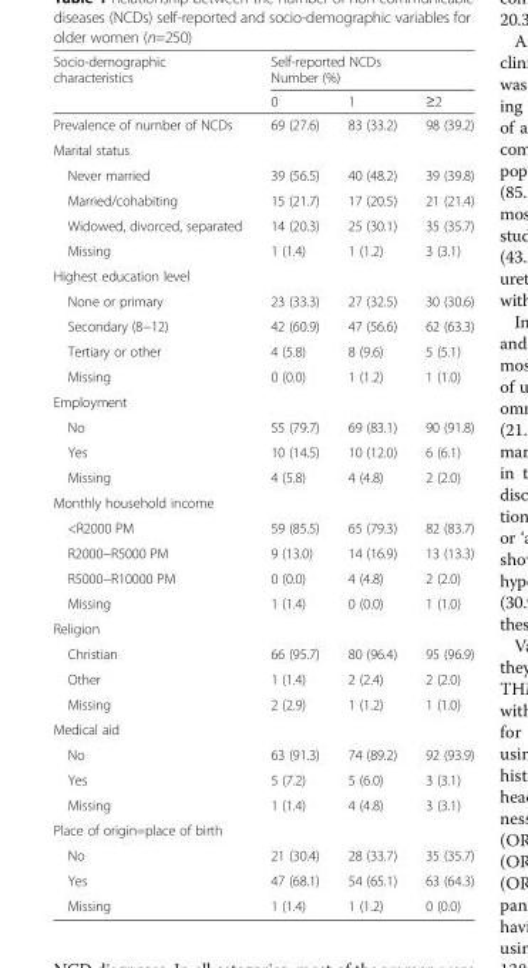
<table><thead><tr><td rowspan="2">Socio-demographic characteristics</td><td colspan="3">Self-reported NCDs Number (%)</td></tr><tr><td>0</td><td>1</td><td>≥2</td></tr></thead><tbody><tr><td>Prevalence of number of NCDs</td><td>69 (27.6)</td><td>83 (33.2)</td><td>98 (39.2)</td></tr><tr><td colspan="4">Marital status</td></tr><tr><td>Never married</td><td>39 (56.5)</td><td>40 (48.2)</td><td>39 (39.8)</td></tr><tr><td>Married/cohabiting</td><td>15 (21.7)</td><td>17 (20.5)</td><td>21 (21.4)</td></tr><tr><td>Widowed, divorced, separated</td><td>14 (20.3)</td><td>25 (30.1)</td><td>35 (35.7)</td></tr><tr><td>Missing</td><td>1 (1.4)</td><td>1 (1.2)</td><td>3 (3.1)</td></tr><tr><td colspan="4">Highest education level</td></tr><tr><td>None or primary</td><td>23 (33.3)</td><td>27 (32.5)</td><td>30 (30.6)</td></tr><tr><td>Secondary (8−12)</td><td>42 (60.9)</td><td>47 (56.6)</td><td>62 (63.3)</td></tr><tr><td>Tertiary or other</td><td>4 (5.8)</td><td>8 (9.6)</td><td>5 (5.1)</td></tr><tr><td>Missing</td><td>0 (0.0)</td><td>1 (1.2)</td><td>1 (1.0)</td></tr><tr><td colspan="4">Employment</td></tr><tr><td>No</td><td>55 (79.7)</td><td>69 (83.1)</td><td>90 (91.8)</td></tr><tr><td>Yes</td><td>10 (14.5)</td><td>10 (12.0)</td><td>6 (6.1)</td></tr><tr><td>Missing</td><td>4 (5.8)</td><td>4 (4.8)</td><td>2 (2.0)</td></tr><tr><td colspan="4">Monthly household income</td></tr><tr><td>&lt;R2000 PM</td><td>59 (85.5)</td><td>65 (79.3)</td><td>82 (83.7)</td></tr><tr><td>R2000−R5000 PM</td><td>9 (13.0)</td><td>14 (16.9)</td><td>13 (13.3)</td></tr><tr><td>R5000−R10000 PM</td><td>0 (0.0)</td><td>4 (4.8)</td><td>2 (2.0)</td></tr><tr><td>Missing</td><td>1 (1.4)</td><td>0 (0.0)</td><td>1 (1.0)</td></tr><tr><td colspan="4">Religion</td></tr><tr><td>Christian</td><td>66 (95.7)</td><td>80 (96.4)</td><td>95 (96.9)</td></tr><tr><td>Other</td><td>1 (1.4)</td><td>2 (2.4)</td><td>2 (2.0)</td></tr><tr><td>Missing</td><td>2 (2.9)</td><td>1 (1.2)</td><td>1 (1.0)</td></tr><tr><td colspan="4">Medical aid</td></tr><tr><td>No</td><td>63 (91.3)</td><td>74 (89.2)</td><td>92 (93.9)</td></tr><tr><td>Yes</td><td>5 (7.2)</td><td>5 (6.0)</td><td>3 (3.1)</td></tr><tr><td>Missing</td><td>1 (1.4)</td><td>4 (4.8)</td><td>3 (3.1)</td></tr><tr><td colspan="4">Place of origin=place of birth</td></tr><tr><td>No</td><td>21 (30.4)</td><td>28 (33.7)</td><td>35 (35.7)</td></tr><tr><td>Yes</td><td>47 (68.1)</td><td>54 (65.1)</td><td>63 (64.3)</td></tr><tr><td>Missing</td><td>1 (1.4)</td><td>1 (1.2)</td><td>0 (0.0)</td></tr></tbody></table>